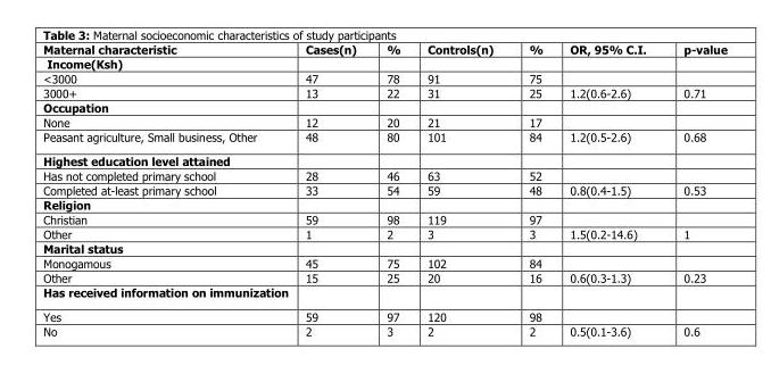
<table><thead><tr><td>Maternal characteristic</td><td>Cases(n)</td><td>%</td><td>Controls(n)</td><td>%</td><td>OR, 95% C.I.</td><td>p-value</td></tr></thead><tbody><tr><td colspan="7">Income(Ksh)</td></tr><tr><td>&lt;3000</td><td>47</td><td>78</td><td>91</td><td>75</td><td></td><td></td></tr><tr><td>3000+</td><td>13</td><td>22</td><td>31</td><td>25</td><td>1.2(0.6-2.6)</td><td>0.71</td></tr><tr><td colspan="7">Occupation</td></tr><tr><td>None</td><td>12</td><td>20</td><td>21</td><td>17</td><td></td><td></td></tr><tr><td>Peasant agriculture, Small business, Other</td><td>48</td><td>80</td><td>101</td><td>84</td><td>1.2(0.5-2.6)</td><td>0.68</td></tr><tr><td colspan="7">Highest education level attained</td></tr><tr><td>Has not completed primary school</td><td>28</td><td>46</td><td>63</td><td>52</td><td></td><td></td></tr><tr><td>Completed at-least primary school</td><td>33</td><td>54</td><td>59</td><td>48</td><td>0.8(0.4-1.5)</td><td>0.53</td></tr><tr><td colspan="7">Religion</td></tr><tr><td>Christian</td><td>59</td><td>98</td><td>119</td><td>97</td><td></td><td></td></tr><tr><td>Other</td><td>1</td><td>2</td><td>3</td><td>3</td><td>1.5(0.2-14.6)</td><td>1</td></tr><tr><td colspan="7">Marital status</td></tr><tr><td>Monogamous</td><td>45</td><td>75</td><td>102</td><td>84</td><td></td><td></td></tr><tr><td>Other</td><td>15</td><td>25</td><td>20</td><td>16</td><td>0.6(0.3-1.3)</td><td>0.23</td></tr><tr><td colspan="7">Has received information on immunization</td></tr><tr><td>Yes</td><td>59</td><td>97</td><td>120</td><td>98</td><td></td><td></td></tr><tr><td>No</td><td>2</td><td>3</td><td>2</td><td>2</td><td>0.5(0.1-3.6)</td><td>0.6</td></tr></tbody></table>